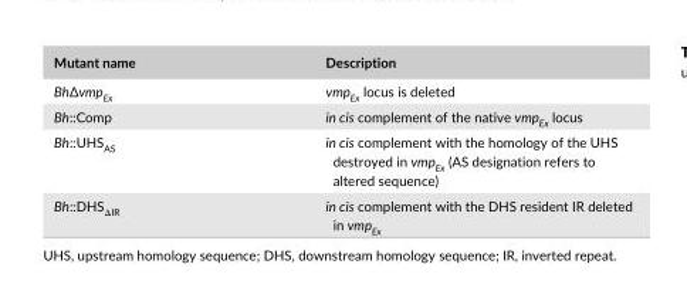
<table><thead><tr><td>Mutant name</td><td>Description</td></tr></thead><tbody><tr><td>Bh∆vmp<sub>Ex</sub></td><td>vmp<sub>Ex</sub> locus is deleted</td></tr><tr><td>Bh::Comp</td><td>in cis complement of the native vmp<sub>Ex</sub> locus</td></tr><tr><td>Bh::UHS<sub>AS</sub></td><td>in cis complement with the homology of the UHS destroyed in vmp<sub>Ex</sub> (AS designation refers to altered sequence)</td></tr><tr><td>Bh::DHS<sub>ΔIR</sub></td><td>in cis complement with the DHS resident IR deleted in vmp<sub>Ex</sub></td></tr></tbody></table>